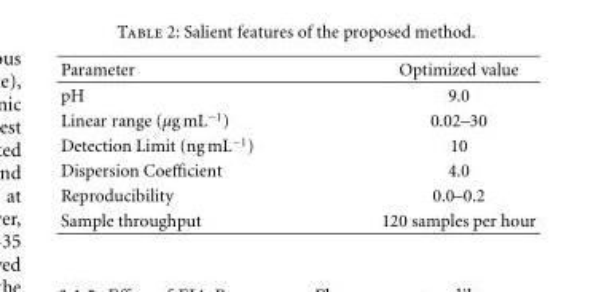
<table><thead><tr><td>Parameter</td><td>Optimized value</td></tr></thead><tbody><tr><td>pH</td><td>9.0</td></tr><tr><td>Linear range (µg mL<sup>−1</sup>)</td><td>0.02–30</td></tr><tr><td>Detection Limit (ng mL<sup>−1</sup>)</td><td>10</td></tr><tr><td>Dispersion Coefficient</td><td>4.0</td></tr><tr><td>Reproducibility</td><td>0.0–0.2</td></tr><tr><td>Sample throughput</td><td>120 samples per hour</td></tr></tbody></table>